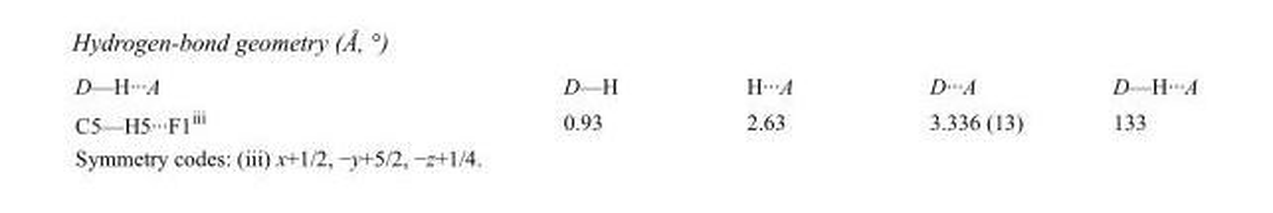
<table><tbody><tr><td>D—H···A</td><td>D—H</td><td>H···A</td><td>D···A</td><td>D—H···A</td></tr><tr><td>C5—H5···F1<sup>iii</sup></td><td>0.93</td><td>2.63</td><td>3.336 (13)</td><td>133</td></tr></tbody></table>